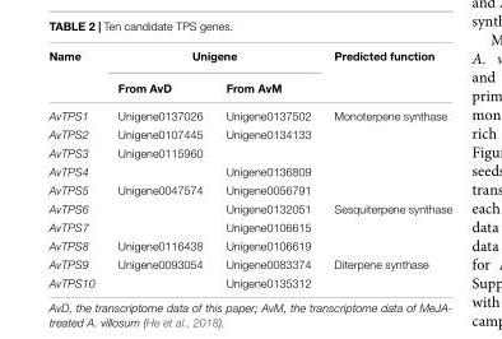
<table><thead><tr><td rowspan="2">Name</td><td colspan="2">Unigene</td><td rowspan="2">Predicted function</td></tr><tr><td>From AvD</td><td>From AvM</td></tr></thead><tbody><tr><td>AvTPS1</td><td>Unigene0137026</td><td>Unigene0137502</td><td>Monoterpene synthase</td></tr><tr><td>AvTPS2</td><td>Unigene0107445</td><td>Unigene0134133</td><td></td></tr><tr><td>AvTPS3</td><td>Unigene0115960</td><td></td><td></td></tr><tr><td>AvTPS4</td><td></td><td>Unigene0136809</td><td></td></tr><tr><td>AvTPS5</td><td>Unigene0047574</td><td>Unigene0056791</td><td></td></tr><tr><td>AvTPS6</td><td></td><td>Unigene0132051</td><td>Sesquiterpene synthase</td></tr><tr><td>AvTPS7</td><td></td><td>Unigene0106615</td><td></td></tr><tr><td>AvTPS8</td><td>Unigene0116438</td><td>Unigene0106619</td><td></td></tr><tr><td>AvTPS9</td><td>Unigene0093054</td><td>Unigene0083374</td><td>Diterpene synthase</td></tr><tr><td>AvTPS10</td><td></td><td>Unigene0135312</td><td></td></tr></tbody></table>